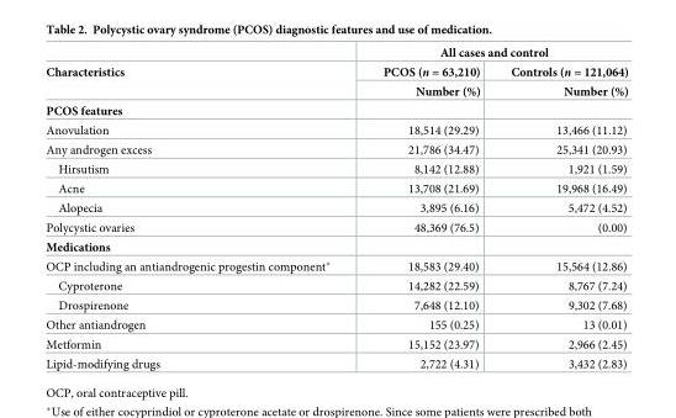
<table><thead><tr><td rowspan="3">Characteristics</td><td colspan="2">All cases and control</td></tr><tr><td rowspan="2">PCOS (n = 63,210) Number (%)</td><td rowspan="2">Controls (n = 121,064) Number (%)</td></tr><tr></tr></thead><tbody><tr><td colspan="3">PCOS features</td></tr><tr><td>Anovulation</td><td>18,514 (29.29)</td><td>13,466 (11.12)</td></tr><tr><td>Any androgen excess</td><td>21,786 (34.47)</td><td>25,341 (20.93)</td></tr><tr><td>Hirsutism</td><td>8,142 (12.88)</td><td>1,921 (1.59)</td></tr><tr><td>Acne</td><td>13,708 (21.69)</td><td>19,968 (16.49)</td></tr><tr><td>Alopecia</td><td>3,895 (6.16)</td><td>5,472 (4.52)</td></tr><tr><td>Polycystic ovaries</td><td>48,369 (76.5)</td><td>(0.00)</td></tr><tr><td colspan="3">Medications</td></tr><tr><td>OCP including an antiandrogenic progestin component*</td><td>18,583 (29.40)</td><td>15,564 (12.86)</td></tr><tr><td>Cyproterone</td><td>14,282 (22.59)</td><td>8,767 (7.24)</td></tr><tr><td>Drospirenone</td><td>7,648 (12.10)</td><td>9,302 (7.68)</td></tr><tr><td>Other antiandrogen</td><td>155 (0.25)</td><td>13 (0.01)</td></tr><tr><td>Metformin</td><td>15,152 (23.97)</td><td>2,966 (2.45)</td></tr><tr><td>Lipid-modifying drugs</td><td>2,722 (4.31)</td><td>3,432 (2.83)</td></tr></tbody></table>